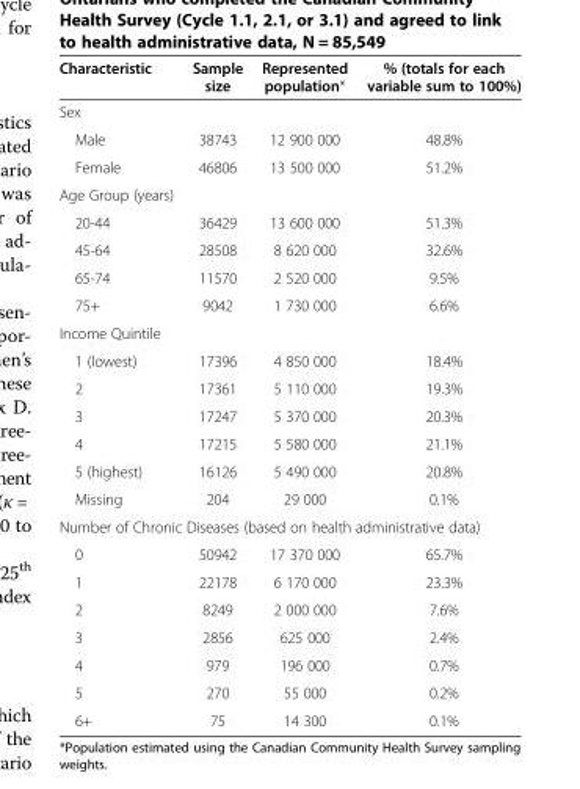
<table><thead><tr><td>Characteristic</td><td>Sample size</td><td>Represented population*</td><td>% (totals for each variable sum to 100%)</td></tr></thead><tbody><tr><td colspan="4">Sex</td></tr><tr><td>Male</td><td>38743</td><td>12 900 000</td><td>48.8%</td></tr><tr><td>Female</td><td>46806</td><td>13 500 000</td><td>51.2%</td></tr><tr><td colspan="4">Age Group (years)</td></tr><tr><td>20-44</td><td>36429</td><td>13 600 000</td><td>51.3%</td></tr><tr><td>45-64</td><td>28508</td><td>8 620 000</td><td>32.6%</td></tr><tr><td>65-74</td><td>11570</td><td>2 520 000</td><td>9.5%</td></tr><tr><td>75+</td><td>9042</td><td>1 730 000</td><td>6.6%</td></tr><tr><td colspan="4">Income Quintile</td></tr><tr><td>1 (lowest)</td><td>17396</td><td>4 850 000</td><td>18.4%</td></tr><tr><td>2</td><td>17361</td><td>5 110 000</td><td>19.3%</td></tr><tr><td>3</td><td>17247</td><td>5 370 000</td><td>20.3%</td></tr><tr><td>4</td><td>17215</td><td>5 580 000</td><td>21.1%</td></tr><tr><td>5 (highest)</td><td>16126</td><td>5 490 000</td><td>20.8%</td></tr><tr><td>Missing</td><td>204</td><td>29 000</td><td>0.1%</td></tr><tr><td colspan="4">Number of Chronic Diseases (based on health administrative data)</td></tr><tr><td>0</td><td>50942</td><td>17 370 000</td><td>65.7%</td></tr><tr><td>1</td><td>22178</td><td>6 170 000</td><td>23.3%</td></tr><tr><td>2</td><td>8249</td><td>2 000 000</td><td>7.6%</td></tr><tr><td>3</td><td>2856</td><td>625 000</td><td>2.4%</td></tr><tr><td>4</td><td>979</td><td>196 000</td><td>0.7%</td></tr><tr><td>5</td><td>270</td><td>55 000</td><td>0.2%</td></tr><tr><td>6+</td><td>75</td><td>14 300</td><td>0.1%</td></tr></tbody></table>